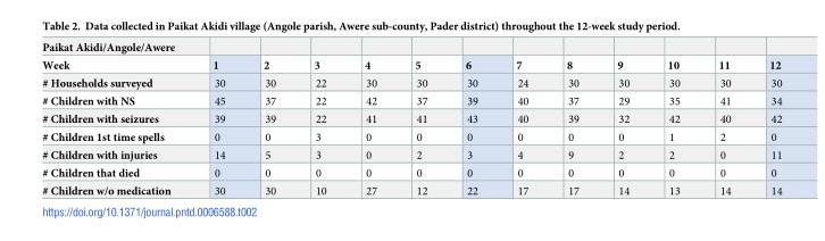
<table><thead><tr><td rowspan="2">Paikat Akidi/Angole/Awere Week</td><td rowspan="2">1</td><td rowspan="2">2</td><td rowspan="2">3</td><td rowspan="2">4</td><td rowspan="2">5</td><td rowspan="2">6</td><td rowspan="2">7</td><td rowspan="2">8</td><td rowspan="2">9</td><td rowspan="2">10</td><td rowspan="2">11</td><td rowspan="2">12</td></tr><tr></tr></thead><tbody><tr><td># Households surveyed</td><td>30</td><td>30</td><td>22</td><td>30</td><td>30</td><td>30</td><td>24</td><td>30</td><td>30</td><td>30</td><td>30</td><td>30</td></tr><tr><td># Children with NS</td><td>45</td><td>37</td><td>22</td><td>42</td><td>37</td><td>39</td><td>40</td><td>37</td><td>29</td><td>35</td><td>41</td><td>34</td></tr><tr><td># Children with seizures</td><td>39</td><td>39</td><td>22</td><td>41</td><td>41</td><td>43</td><td>40</td><td>39</td><td>32</td><td>42</td><td>40</td><td>42</td></tr><tr><td># Children 1st time spells</td><td>0</td><td>0</td><td>3</td><td>0</td><td>0</td><td>0</td><td>0</td><td>0</td><td>0</td><td>1</td><td>2</td><td>0</td></tr><tr><td># Children with injuries</td><td>14</td><td>5</td><td>3</td><td>0</td><td>2</td><td>3</td><td>4</td><td>9</td><td>2</td><td>2</td><td>0</td><td>11</td></tr><tr><td># Children that died</td><td>0</td><td>0</td><td>0</td><td>0</td><td>0</td><td>0</td><td>0</td><td>0</td><td>0</td><td>0</td><td>0</td><td>0</td></tr><tr><td># Children w/o medication</td><td>30</td><td>30</td><td>10</td><td>27</td><td>12</td><td>22</td><td>17</td><td>17</td><td>14</td><td>13</td><td>14</td><td>14</td></tr></tbody></table>